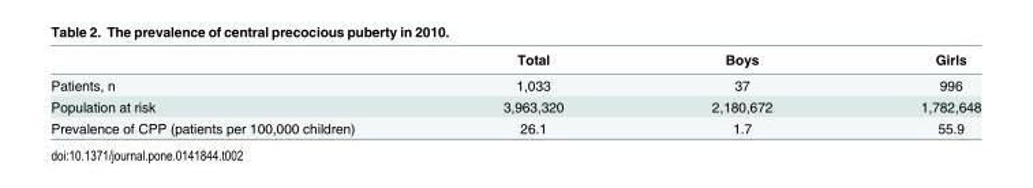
<table><thead><tr><td></td><td>Total</td><td>Boys</td><td>Girls</td></tr></thead><tbody><tr><td>Patients, n</td><td>1,033</td><td>37</td><td>996</td></tr><tr><td>Population at risk</td><td>3,963,320</td><td>2,180,672</td><td>1,782,648</td></tr><tr><td>Prevalence of CPP (patients per 100,000 children)</td><td>26.1</td><td>1.7</td><td>55.9</td></tr></tbody></table>